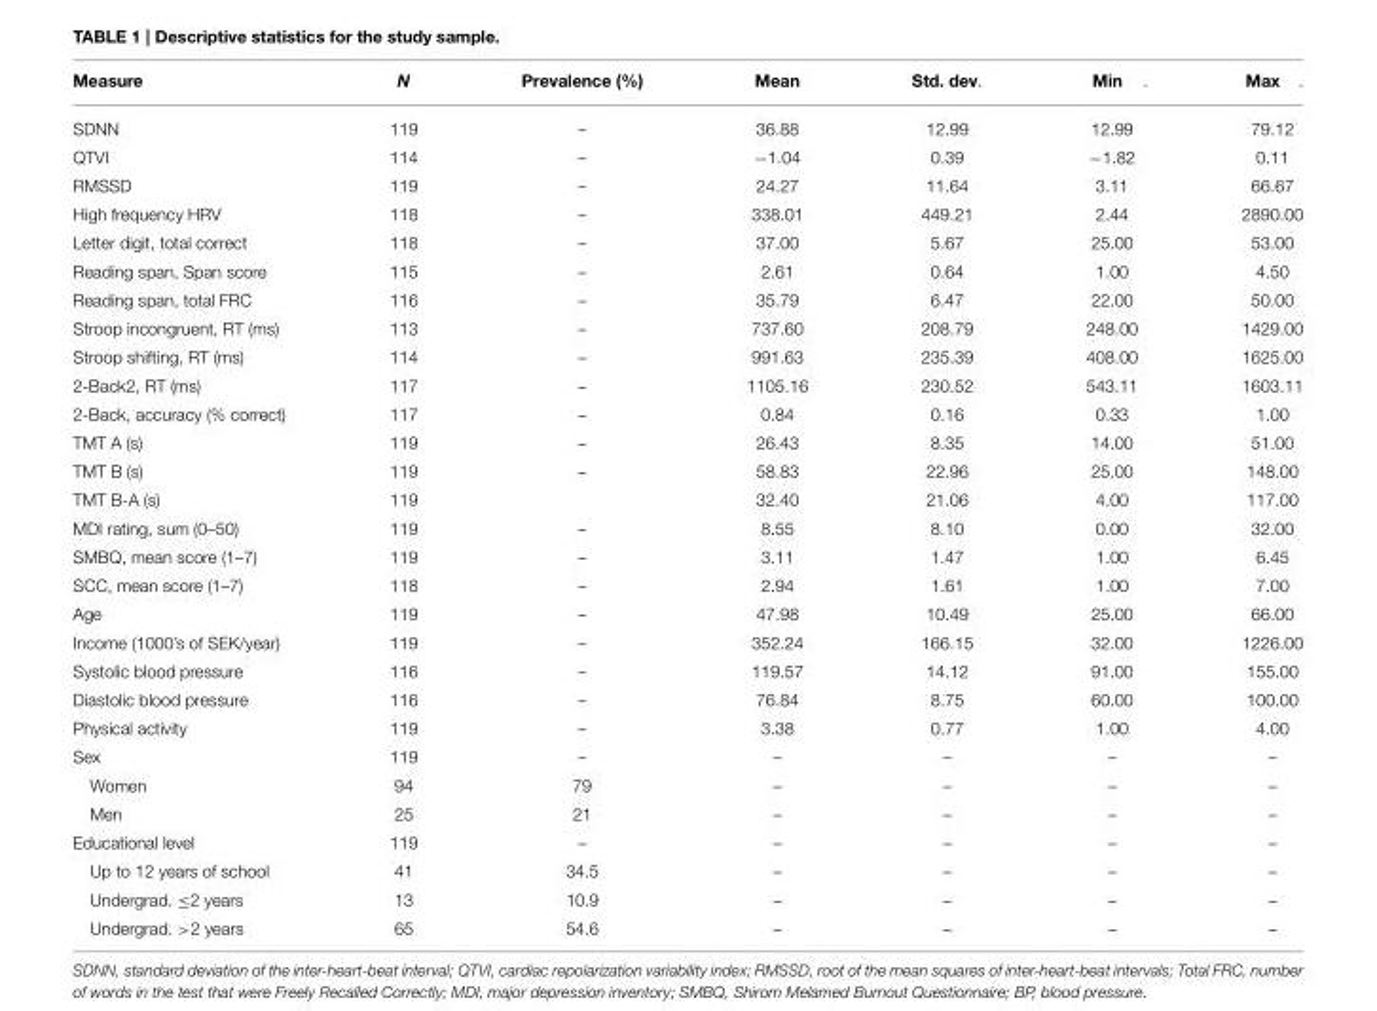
<table><thead><tr><td>Measure</td><td>N</td><td>Prevalence (%)</td><td>Mean</td><td>Std. dev.</td><td>Min .</td><td>Max .</td></tr></thead><tbody><tr><td>SDNN</td><td>119</td><td>–</td><td>36.88</td><td>12.99</td><td>12.99</td><td>79.12</td></tr><tr><td>QTVI</td><td>114</td><td>–</td><td>−1.04</td><td>0.39</td><td>−1.82</td><td>0.11</td></tr><tr><td>RMSSD</td><td>119</td><td>–</td><td>24.27</td><td>11.64</td><td>3.11</td><td>66.67</td></tr><tr><td>High frequency HRV</td><td>118</td><td>–</td><td>338.01</td><td>449.21</td><td>2.44</td><td>2890.00</td></tr><tr><td>Letter digit, total correct</td><td>118</td><td>–</td><td>37.00</td><td>5.67</td><td>25.00</td><td>53.00</td></tr><tr><td>Reading span, Span score</td><td>115</td><td>–</td><td>2.61</td><td>0.64</td><td>1.00</td><td>4.50</td></tr><tr><td>Reading span, total FRC</td><td>116</td><td>–</td><td>35.79</td><td>6.47</td><td>22.00</td><td>50.00</td></tr><tr><td>Stroop incongruent, RT (ms)</td><td>113</td><td>–</td><td>737.60</td><td>208.79</td><td>248.00</td><td>1429.00</td></tr><tr><td>Stroop shifting, RT (ms)</td><td>114</td><td>–</td><td>991.63</td><td>235.39</td><td>408.00</td><td>1625.00</td></tr><tr><td>2-Back2, RT (ms)</td><td>117</td><td>–</td><td>1105.16</td><td>230.52</td><td>543.11</td><td>1603.11</td></tr><tr><td>2-Back, accuracy (% correct)</td><td>117</td><td>–</td><td>0.84</td><td>0.16</td><td>0.33</td><td>1.00</td></tr><tr><td>TMT A (s)</td><td>119</td><td>–</td><td>26.43</td><td>8.35</td><td>14.00</td><td>51.00</td></tr><tr><td>TMT B (s)</td><td>119</td><td>–</td><td>58.83</td><td>22.96</td><td>25.00</td><td>148.00</td></tr><tr><td>TMT B-A (s)</td><td>119</td><td></td><td>32.40</td><td>21.06</td><td>4.00</td><td>117.00</td></tr><tr><td>MDI rating, sum (0–50)</td><td>119</td><td>–</td><td>8.55</td><td>8.10</td><td>0.00</td><td>32.00</td></tr><tr><td>SMBQ, mean score (1–7)</td><td>119</td><td>–</td><td>3.11</td><td>1.47</td><td>1.00</td><td>6.45</td></tr><tr><td>SCC, mean score (1–7)</td><td>118</td><td>–</td><td>2.94</td><td>1.61</td><td>1.00</td><td>7.00</td></tr><tr><td>Age</td><td>119</td><td>–</td><td>47.98</td><td>10.49</td><td>25.00</td><td>66.00</td></tr><tr><td>Income (1000’s of SEK/year)</td><td>119</td><td>–</td><td>352.24</td><td>166.15</td><td>32.00</td><td>1226.00</td></tr><tr><td>Systolic blood pressure</td><td>116</td><td>–</td><td>119.57</td><td>14.12</td><td>91.00</td><td>155.00</td></tr><tr><td>Diastolic blood pressure</td><td>116</td><td>–</td><td>76.84</td><td>8.75</td><td>60.00</td><td>100.00</td></tr><tr><td>Physical activity</td><td>119</td><td>–</td><td>3.38</td><td>0.77</td><td>1.00</td><td>4.00</td></tr><tr><td>Sex</td><td>119</td><td>–</td><td>–</td><td>–</td><td>–</td><td>–</td></tr><tr><td>Women</td><td>94</td><td>79</td><td>–</td><td>–</td><td>–</td><td>–</td></tr><tr><td>Men</td><td>25</td><td>21</td><td>–</td><td>–</td><td>–</td><td>–</td></tr><tr><td>Educational level</td><td>119</td><td>–</td><td>–</td><td>–</td><td>–</td><td>–</td></tr><tr><td>Up to 12 years of school</td><td>41</td><td>34.5</td><td>–</td><td>–</td><td>–</td><td>–</td></tr><tr><td>Undergrad. ≤2 years</td><td>13</td><td>10.9</td><td>–</td><td>–</td><td>–</td><td>–</td></tr><tr><td>Undergrad. &gt;2 years</td><td>65</td><td>54.6</td><td>–</td><td>–</td><td>–</td><td>–</td></tr></tbody></table>